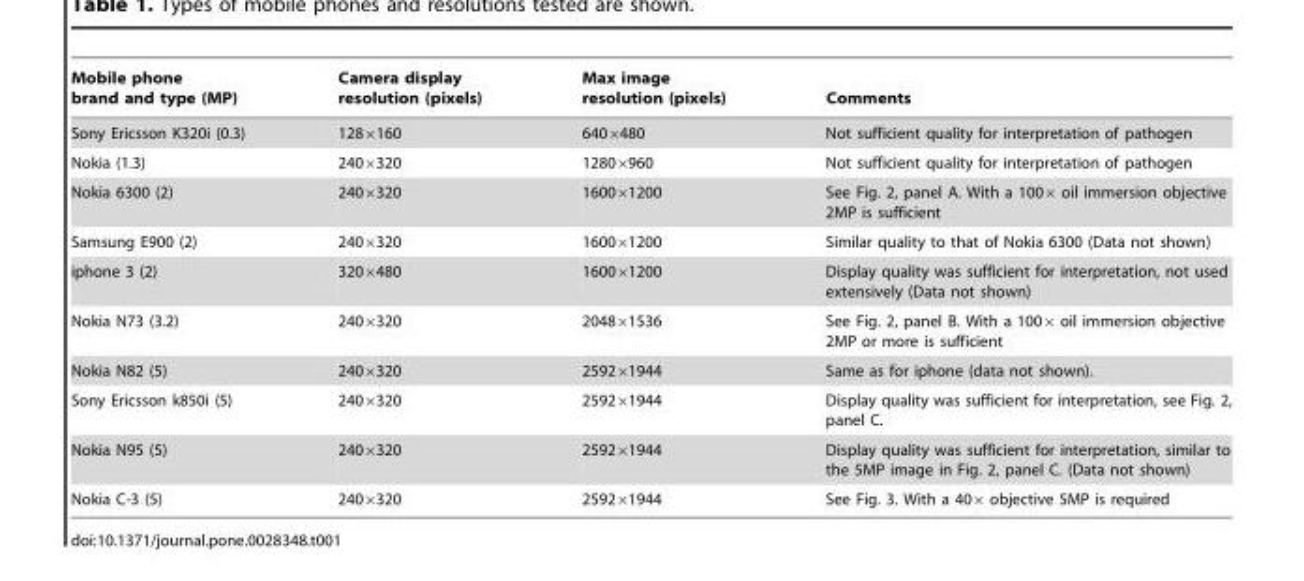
<table><thead><tr><td>Mobile phone brand and type (MP)</td><td>Camera display resolution (pixels)</td><td>Max image resolution (pixels)</td><td>Comments</td></tr></thead><tbody><tr><td>Sony Ericsson K320i (0.3)</td><td>128×160</td><td>640×480</td><td>Not sufficient quality for interpretation of pathogen</td></tr><tr><td>Nokia (1.3)</td><td>240×320</td><td>1280×960</td><td>Not sufficient quality for interpretation of pathogen</td></tr><tr><td>Nokia 6300 (2)</td><td>240×320</td><td>1600×1200</td><td>See Fig. 2, panel A. With a 100× oil immersion objective 2MP is sufficient</td></tr><tr><td>Samsung E900 (2)</td><td>240×320</td><td>1600×1200</td><td>Similar quality to that of Nokia 6300 (Data not shown)</td></tr><tr><td>iphone 3 (2)</td><td>320×480</td><td>1600×1200</td><td>Display quality was sufficient for interpretation, not used extensively (Data not shown)</td></tr><tr><td>Nokia N73 (3.2)</td><td>240×320</td><td>2048×1536</td><td>See Fig. 2, panel B. With a 100× oil immersion objective 2MP or more is sufficient</td></tr><tr><td>Nokia N82 (5)</td><td>240×320</td><td>2592×1944</td><td>Same as for iphone (data not shown).</td></tr><tr><td>Sony Ericsson k850i (5)</td><td>240×320</td><td>2592×1944</td><td>Display quality was sufficient for interpretation, see Fig. 2, panel C.</td></tr><tr><td>Nokia N95 (5)</td><td>240×320</td><td>2592×1944</td><td>Display quality was sufficient for interpretation, similar to the 5MP image in Fig. 2, panel C. (Data not shown)</td></tr><tr><td>Nokia C-3 (5)</td><td>240×320</td><td>2592×1944</td><td>See Fig. 3. With a 40× objective 5MP is required</td></tr></tbody></table>